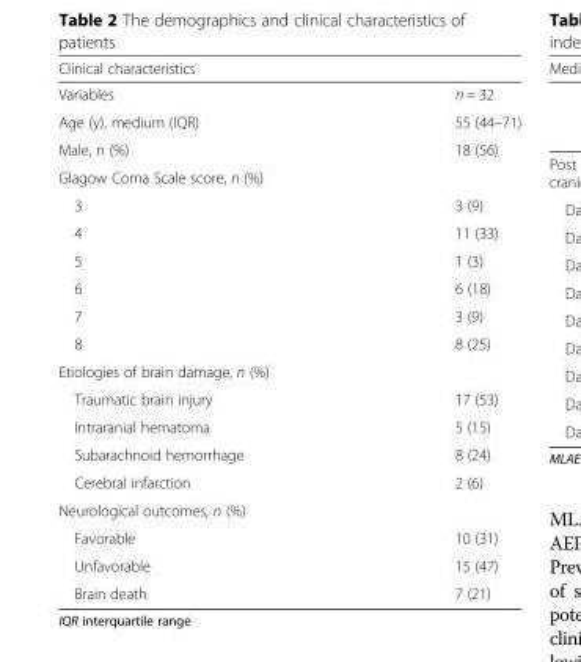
<table><thead><tr><td>Clinical characteristics</td><td></td></tr></thead><tbody><tr><td>Variables</td><td>n = 32</td></tr><tr><td>Age (y), medium (IQR)</td><td>55 (44–71)</td></tr><tr><td>Male, n (%)</td><td>18 (56)</td></tr><tr><td colspan="2">Glagow Coma Scale score, n (%)</td></tr><tr><td>3</td><td>3 (9)</td></tr><tr><td>4</td><td>11 (33)</td></tr><tr><td>5</td><td>1 (3)</td></tr><tr><td>6</td><td>6 (18)</td></tr><tr><td>7</td><td>3 (9)</td></tr><tr><td>8</td><td>8 (25)</td></tr><tr><td colspan="2">Etiologies of brain damage, n (%)</td></tr><tr><td>Traumatic brain injury</td><td>17 (53)</td></tr><tr><td>Intraranial hematoma</td><td>5 (15)</td></tr><tr><td>Subarachnoid hemorrhage</td><td>8 (24)</td></tr><tr><td>Cerebral infarction</td><td>2 (6)</td></tr><tr><td colspan="2">Neurological outcomes, n (%)</td></tr><tr><td>Favorable</td><td>10 (31)</td></tr><tr><td>Unfavorable</td><td>15 (47)</td></tr><tr><td>Brain death</td><td>7 (21)</td></tr></tbody></table>